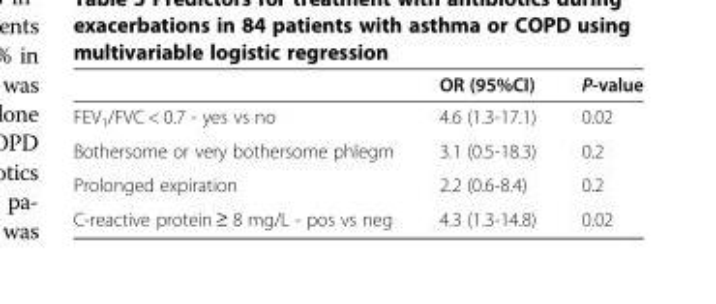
<table><thead><tr><td></td><td>OR (95%CI)</td><td>P-value</td></tr></thead><tbody><tr><td>FEV<sub>1</sub>/FVC &lt; 0.7 - yes vs no</td><td>4.6 (1.3-17.1)</td><td>0.02</td></tr><tr><td>Bothersome or very bothersome phlegm</td><td>3.1 (0.5-18.3)</td><td>0.2</td></tr><tr><td>Prolonged expiration</td><td>2.2 (0.6-8.4)</td><td>0.2</td></tr><tr><td>C-reactive protein ≥ 8 mg/L - pos vs neg</td><td>4.3 (1.3-14.8)</td><td>0.02</td></tr></tbody></table>